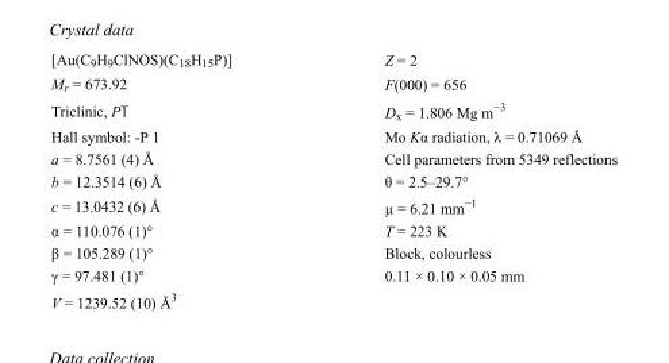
<table><tbody><tr><td>[Au(C<sub>9</sub>H<sub>9</sub>ClNOS)(C<sub>18</sub>H<sub>15</sub>P)]</td><td>Z = 2</td></tr><tr><td>M<sub>r</sub> = 673.92</td><td>F(000) = 656</td></tr><tr><td>Triclinic, P1</td><td>D<sub>x</sub> = 1.806 Mg m<sup>−3</sup></td></tr><tr><td>Hall symbol: -P 1</td><td>Mo Kα radiation, λ = 0.71069 Å</td></tr><tr><td>a = 8.7561 (4) Å</td><td>Cell parameters from 5349 reflections</td></tr><tr><td>b = 12.3514 (6) Å</td><td>θ = 2.5–29.7°</td></tr><tr><td>c = 13.0432 (6) Å</td><td>µ = 6.21 mm<sup>−1</sup></td></tr><tr><td>α = 110.076 (1)°</td><td>T = 223 K</td></tr><tr><td>β = 105.289 (1)°</td><td>Block, colourless</td></tr><tr><td>γ = 97.481 (1)°</td><td>0.11 × 0.10 × 0.05 mm</td></tr><tr><td>V = 1239.52 (10) Å<sup>3</sup></td><td></td></tr></tbody></table>